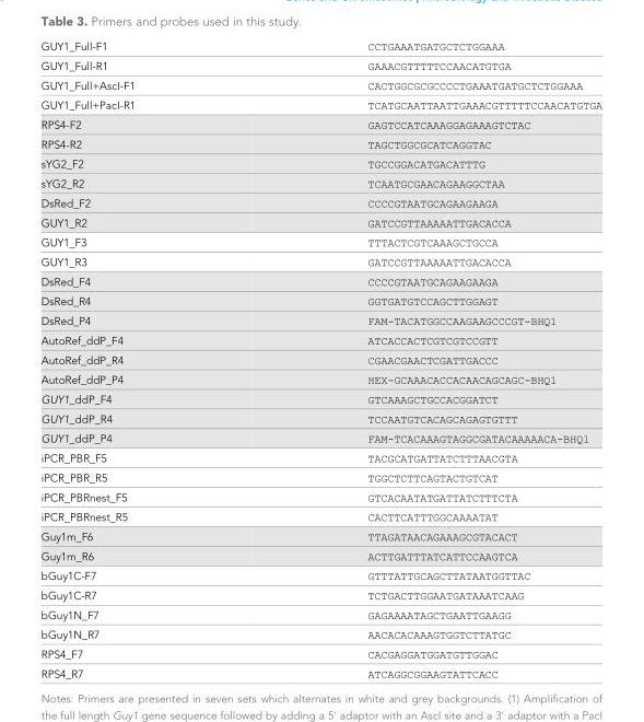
<table><tbody><tr><td>GUY1_Full-F1</td><td>CCTGAAATGATGCTCTGGAAA</td></tr><tr><td>GUY1_Full-R1</td><td>GAAACGTTTTTCCAACATGTGA</td></tr><tr><td>GUY1_Full+AscI-F1</td><td>CACTGGCGCGCCCCTGAAATGATGCTCTGGAAA</td></tr><tr><td>GUY1_Full+PacI-R1</td><td>TCATGCAATTAATTGAAACGTTTTTCCAACATGTGA</td></tr><tr><td>RPS4-F2</td><td>GAGTCCATCAAAGGAGAAAGTCTAC</td></tr><tr><td>RPS4-R2</td><td>TAGCTGGCGCATCAGGTAC</td></tr><tr><td>sYG2_F2</td><td>TGCCGGACATGACATTTG</td></tr><tr><td>sYG2_R2</td><td>TCAATGCGAACAGAAGGCTAA</td></tr><tr><td>DsRed_F2</td><td>CCCCGTAATGCAGAAGAAGA</td></tr><tr><td>GUY1_R2</td><td>GATCCGTTAAAAATTGACACCA</td></tr><tr><td>GUY1_F3</td><td>TTTACTCGTCAAAGCTGCCA</td></tr><tr><td>GUY1_R3</td><td>GATCCGTTAAAAATTGACACCA</td></tr><tr><td>DsRed_F4</td><td>CCCCGTAATGCAGAAGAAGA</td></tr><tr><td>DsRed_R4</td><td>GGTGATGTCCAGCTTGGAGT</td></tr><tr><td>DsRed_P4</td><td>FAM-TACATGGCCAAGAAGCCCGT-BHQ1</td></tr><tr><td>AutoRef_ddP_F4</td><td>ATCACCACTCGTCGTCCGTT</td></tr><tr><td>AutoRef_ddP_R4</td><td>CGAACGAACTCGATTGACCC</td></tr><tr><td>AutoRef_ddP_P4</td><td>HEX-GCAAACACCACAACAGCAGC-BHQ1</td></tr><tr><td>GUY1_ddP_F4</td><td>GTCAAAGCTGCCACGGATCT</td></tr><tr><td>GUY1_ddP_R4</td><td>TCCAATGTCACAGCAGAGTGTTT</td></tr><tr><td>GUY1_ddP_P4</td><td>FAM-TCACAAAGTAGGCGATACAAAAACA-BHQ1</td></tr><tr><td>iPCR_PBR_F5</td><td>TACGCATGATTATCTTTAACGTA</td></tr><tr><td>iPCR_PBR_R5</td><td>TGGCTCTTCAGTACTGTCAT</td></tr><tr><td>iPCR_PBRnest_F5</td><td>GTCACAATATGATTATCTTTCTA</td></tr><tr><td>iPCR_PBRnest_R5</td><td>CACTTCATTTGGCAAAATAT</td></tr><tr><td>Guy1m_F6</td><td>TTAGATAACAGAAAGCGTACACT</td></tr><tr><td>Guy1m_R6</td><td>ACTTGATTTATCATTCCAAGTCA</td></tr><tr><td>bGuy1C-F7</td><td>GTTTATTGCAGCTTATAATGGTTAC</td></tr><tr><td>bGuy1C-R7</td><td>TCTGACTTGGAATGATAAATCAAG</td></tr><tr><td>bGuy1N_F7</td><td>GAGAAAATAGCTGAATTGAAGG</td></tr><tr><td>bGuy1N_R7</td><td>AACACACAAAGTGGTCTTATGC</td></tr><tr><td>RPS4_F7</td><td>CACGAGGATGGATGTTGGAC</td></tr><tr><td>RPS4_R7</td><td>ATCAGGCGGAAGTATTCACC</td></tr></tbody></table>